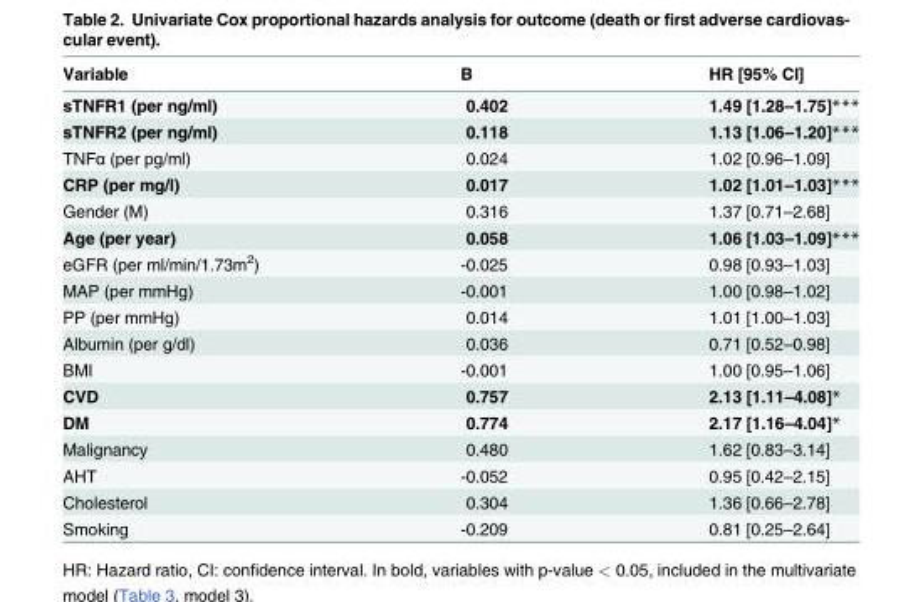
<table><thead><tr><td>Variable</td><td>B</td><td>HR [95% CI]</td></tr></thead><tbody><tr><td>sTNFR1 (per ng/ml)</td><td>0.402</td><td>1.49 [1.28–1.75]***</td></tr><tr><td>sTNFR2 (per ng/ml)</td><td>0.118</td><td>1.13 [1.06–1.20]***</td></tr><tr><td>TNFα (per pg/ml)</td><td>0.024</td><td>1.02 [0.96–1.09]</td></tr><tr><td>CRP (per mg/l)</td><td>0.017</td><td>1.02 [1.01–1.03]***</td></tr><tr><td>Gender (M)</td><td>0.316</td><td>1.37 [0.71–2.68]</td></tr><tr><td>Age (per year)</td><td>0.058</td><td>1.06 [1.03–1.09]***</td></tr><tr><td>eGFR (per ml/min/1.73m<sup>2</sup>)</td><td>-0.025</td><td>0.98 [0.93–1.03]</td></tr><tr><td>MAP (per mmHg)</td><td>-0.001</td><td>1.00 [0.98–1.02]</td></tr><tr><td>PP (per mmHg)</td><td>0.014</td><td>1.01 [1.00–1.03]</td></tr><tr><td>Albumin (per g/dl)</td><td>0.036</td><td>0.71 [0.52–0.98]</td></tr><tr><td>BMI</td><td>-0.001</td><td>1.00 [0.95–1.06]</td></tr><tr><td>CVD</td><td>0.757</td><td>2.13 [1.11–4.08]*</td></tr><tr><td>DM</td><td>0.774</td><td>2.17 [1.16–4.04]*</td></tr><tr><td>Malignancy</td><td>0.480</td><td>1.62 [0.83–3.14]</td></tr><tr><td>AHT</td><td>-0.052</td><td>0.95 [0.42–2.15]</td></tr><tr><td>Cholesterol</td><td>0.304</td><td>1.36 [0.66–2.78]</td></tr><tr><td>Smoking</td><td>-0.209</td><td>0.81 [0.25–2.64]</td></tr></tbody></table>